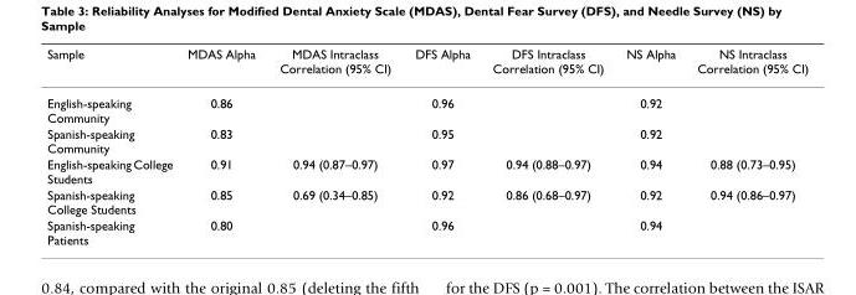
<table><thead><tr><td>Sample</td><td>MDAS Alpha</td><td>MDAS Intraclass Correlation (95% CI)</td><td>DFS Alpha</td><td>DFS Intraclass Correlation (95% CI)</td><td>NS Alpha</td><td>NS Intraclass Correlation (95% CI)</td></tr></thead><tbody><tr><td>English-speaking Community</td><td>0.86</td><td></td><td>0.96</td><td></td><td>0.92</td><td></td></tr><tr><td>Spanish-speaking Community</td><td>0.83</td><td></td><td>0.95</td><td></td><td>0.92</td><td></td></tr><tr><td>English-speaking College Students</td><td>0.91</td><td>0.94 (0.87–0.97)</td><td>0.97</td><td>0.94 (0.88–0.97)</td><td>0.94</td><td>0.88 (0.73–0.95)</td></tr><tr><td>Spanish-speaking College Students</td><td>0.85</td><td>0.69 (0.34–0.85)</td><td>0.92</td><td>0.86 (0.68–0.97)</td><td>0.92</td><td>0.94 (0.86–0.97)</td></tr><tr><td>Spanish-speaking Patients</td><td>0.80</td><td></td><td>0.96</td><td></td><td>0.94</td><td></td></tr></tbody></table>